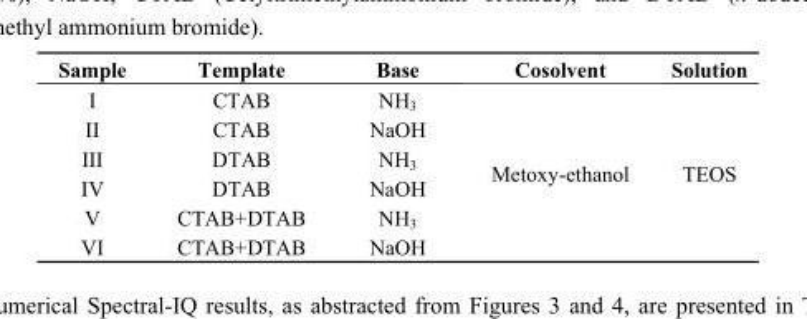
<table><thead><tr><td>Sample</td><td>Template</td><td>Base</td><td>Cosolvent</td><td>Solution</td></tr></thead><tbody><tr><td>I</td><td>CTAB</td><td>NH<sub>3</sub></td><td rowspan="6">Metoxy-ethanol</td><td rowspan="6">TEOS</td></tr><tr><td>II</td><td>CTAB</td><td>NaOH</td></tr><tr><td>III</td><td>DTAB</td><td>NH<sub>3</sub></td></tr><tr><td>IV</td><td>DTAB</td><td>NaOH</td></tr><tr><td>V</td><td>CTAB+DTAB</td><td>NH<sub>3</sub></td></tr><tr><td>VI</td><td>CTAB+DTAB</td><td>NaOH</td></tr></tbody></table>